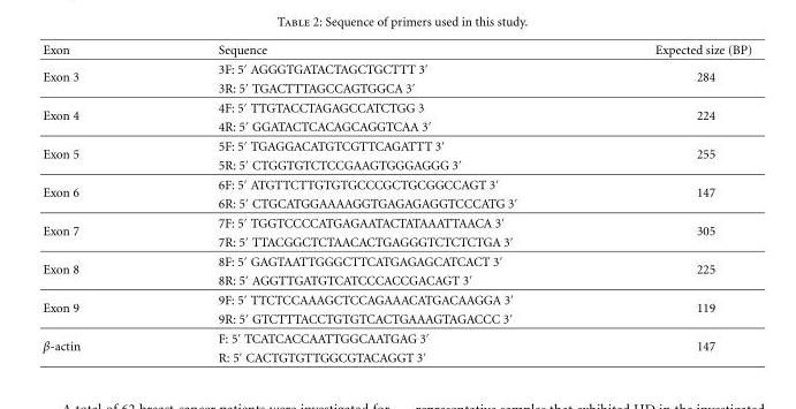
<table><thead><tr><td>Exon</td><td>Sequence</td><td>Expected size (BP)</td></tr></thead><tbody><tr><td rowspan="2">Exon 3</td><td>3F: 5′ AGGGTGATACTAGCTGCTTT 3′</td><td rowspan="2">284</td></tr><tr><td>3R: 5′ TGACTTTAGCCAGTGGCA 3′</td></tr><tr><td rowspan="2">Exon 4</td><td>4F: 5′ TTGTACCTAGAGCCATCTGG 3</td><td rowspan="2">224</td></tr><tr><td>4R: 5′ GGATACTCACAGCAGGTCAA 3′</td></tr><tr><td rowspan="2">Exon 5</td><td>5F: 5′ TGAGGACATGTCGTTCAGATTT 3′</td><td rowspan="2">255</td></tr><tr><td>5R: 5′ CTGGTGTCTCCGAAGTGGGAGGG 3′</td></tr><tr><td rowspan="2">Exon 6</td><td>6F: 5′ ATGTTCTTGTGTGCCCGCTGCGGCCAGT 3′</td><td rowspan="2">147</td></tr><tr><td>6R: 5′ CTGCATGGAAAAGGTGAGAGAGGTCCCATG 3′</td></tr><tr><td rowspan="2">Exon 7</td><td>7F: 5′ TGGTCCCCATGAGAATACTATAAATTAACA 3′</td><td rowspan="2">305</td></tr><tr><td>7R: 5′ TTACGGCTCTAACACTGAGGGTCTCTCTGA 3′</td></tr><tr><td rowspan="2">Exon 8</td><td>8F: 5′ GAGTAATTGGGCTTCATGAGAGCATCACT 3′</td><td rowspan="2">225</td></tr><tr><td>8R: 5′ AGGTTGATGTCATCCCACCGACAGT 3′</td></tr><tr><td rowspan="2">Exon 9</td><td>9F: 5′ TTCTCCAAAGCTCCAGAAACATGACAAGGA 3′</td><td rowspan="2">119</td></tr><tr><td>9R: 5′ GTCTTTACCTGTGTCACTGAAAGTAGACCC 3′</td></tr><tr><td rowspan="2">β-actin</td><td>F: 5′ TCATCACCAATTGGCAATGAG 3′</td><td rowspan="2">147</td></tr><tr><td>R: 5′ CACTGTGTTGGCGTACAGGT 3′</td></tr></tbody></table>